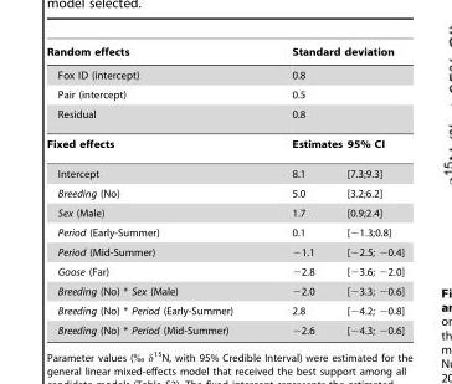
<table><thead><tr><td>Random effects</td><td colspan="2">Standard deviation</td></tr></thead><tbody><tr><td>Fox ID (intercept)</td><td colspan="2">0.8</td></tr><tr><td>Pair (intercept)</td><td colspan="2">0.5</td></tr><tr><td>Residual</td><td colspan="2">0.8</td></tr><tr><td>Fixed effects</td><td>Estimates</td><td>95% CI</td></tr><tr><td>Intercept</td><td>8.1</td><td>[7.3;9.3]</td></tr><tr><td>Breeding (No)</td><td>5.0</td><td>[3.2;6.2]</td></tr><tr><td>Sex (Male)</td><td>1.7</td><td>[0.9;2.4]</td></tr><tr><td>Period (Early-Summer)</td><td>0.1</td><td>[−1.3;0.8]</td></tr><tr><td>Period (Mid-Summer)</td><td>−1.1</td><td>[−2.5; −0.4]</td></tr><tr><td>Goose (Far)</td><td>−2.8</td><td>[−3.6; −2.0]</td></tr><tr><td>Breeding (No) * Sex (Male)</td><td>−2.0</td><td>[−3.3; −0.6]</td></tr><tr><td>Breeding (No) * Period (Early-Summer)</td><td>2.8</td><td>[−4.2; −0.8]</td></tr><tr><td>Breeding (No) * Period (Mid-Summer)</td><td>−2.6</td><td>[−4.3; −0.6]</td></tr></tbody></table>